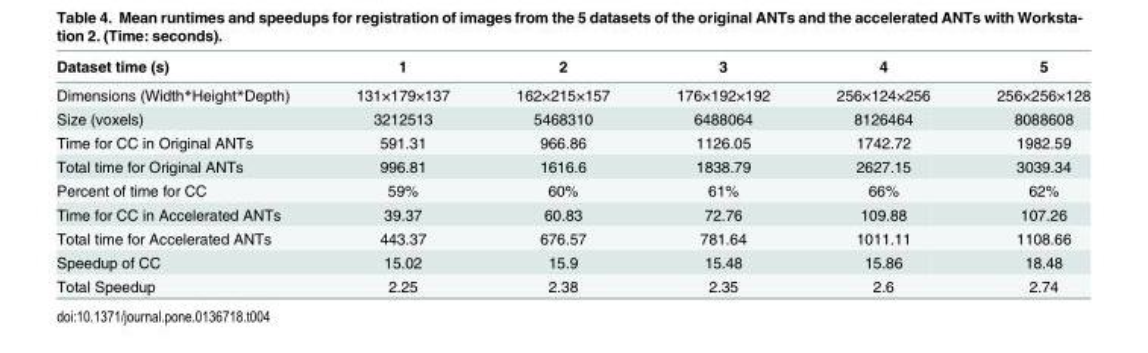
<table><thead><tr><td>Dataset time (s)</td><td>1</td><td>2</td><td>3</td><td>4</td><td>5</td></tr></thead><tbody><tr><td>Dimensions (Width*Height*Depth)</td><td>131×179×137</td><td>162×215×157</td><td>176×192×192</td><td>256×124×256</td><td>256×256×128</td></tr><tr><td>Size (voxels)</td><td>3212513</td><td>5468310</td><td>6488064</td><td>8126464</td><td>8088608</td></tr><tr><td>Time for CC in Original ANTs</td><td>591.31</td><td>966.86</td><td>1126.05</td><td>1742.72</td><td>1982.59</td></tr><tr><td>Total time for Original ANTs</td><td>996.81</td><td>1616.6</td><td>1838.79</td><td>2627.15</td><td>3039.34</td></tr><tr><td>Percent of time for CC</td><td>59%</td><td>60%</td><td>61%</td><td>66%</td><td>62%</td></tr><tr><td>Time for CC in Accelerated ANTs</td><td>39.37</td><td>60.83</td><td>72.76</td><td>109.88</td><td>107.26</td></tr><tr><td>Total time for Accelerated ANTs</td><td>443.37</td><td>676.57</td><td>781.64</td><td>1011.11</td><td>1108.66</td></tr><tr><td>Speedup of CC</td><td>15.02</td><td>15.9</td><td>15.48</td><td>15.86</td><td>18.48</td></tr><tr><td>Total Speedup</td><td>2.25</td><td>2.38</td><td>2.35</td><td>2.6</td><td>2.74</td></tr></tbody></table>